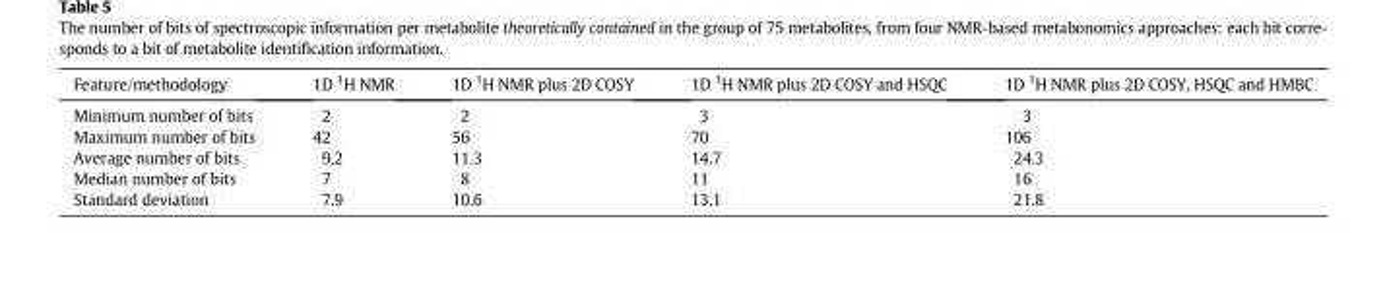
<table><thead><tr><td>Feature/methodology</td><td>1D <sup>1</sup>H NMR</td><td>1D <sup>1</sup>H NMR plus 2D COSY</td><td>1D <sup>1</sup>H NMR plus 2D COSY and HSQC</td><td>1D <sup>1</sup>H NMR plus 2D COSY, HSQC and HMBC</td></tr></thead><tbody><tr><td>Minimum number of bits</td><td>2</td><td>2</td><td>3</td><td>3</td></tr><tr><td>Maximum number of bits</td><td>42</td><td>56</td><td>70</td><td>106</td></tr><tr><td>Average number of bits</td><td>9.2</td><td>11.3</td><td>14.7</td><td>24.3</td></tr><tr><td>Median number of bits</td><td>7</td><td>8</td><td>11</td><td>16</td></tr><tr><td>Standard deviation</td><td>7.9</td><td>10.6</td><td>13.1</td><td>21.8</td></tr></tbody></table>